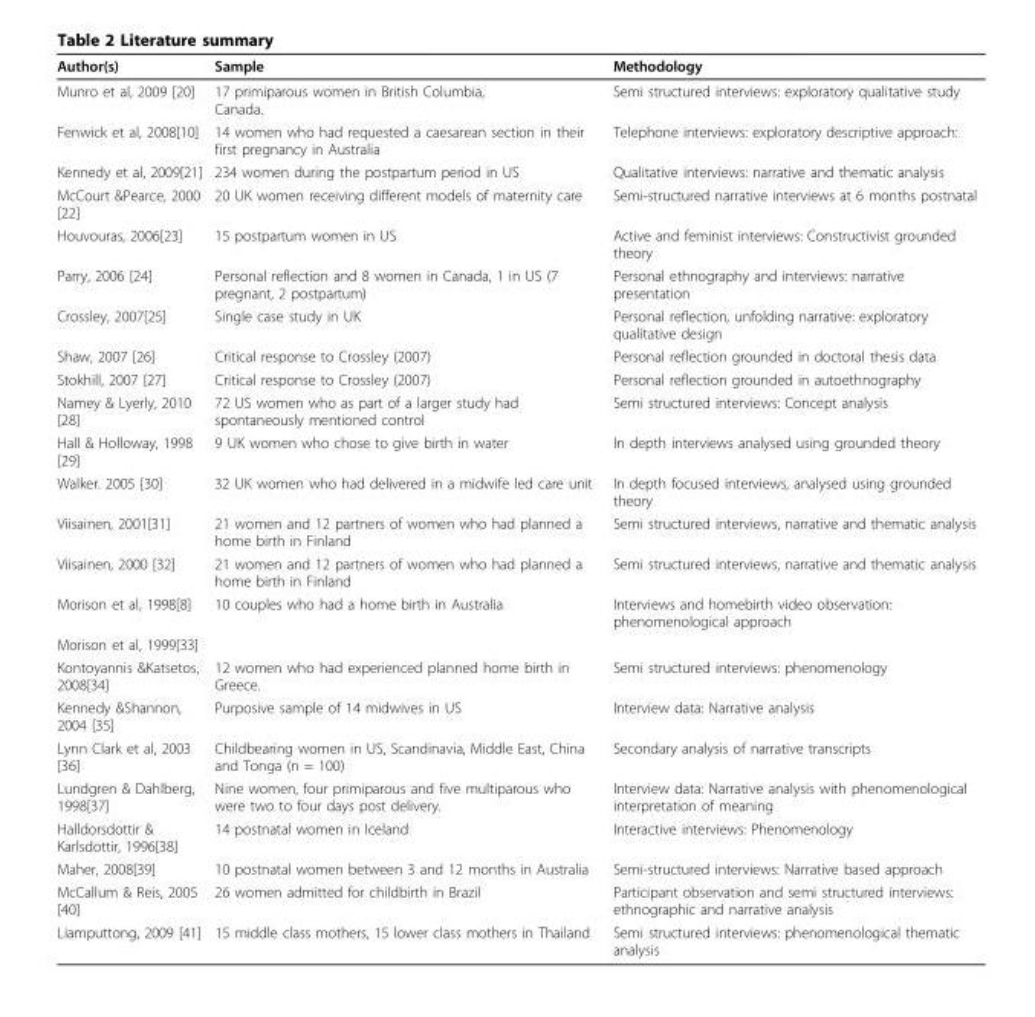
<table><thead><tr><td>Author(s)</td><td>Sample</td><td>Methodology</td></tr></thead><tbody><tr><td>Munro et al, 2009 [20]</td><td>17 primiparous women in British Columbia, Canada.</td><td>Semi structured interviews: exploratory qualitative study</td></tr><tr><td>Fenwick et al, 2008[10]</td><td>14 women who had requested a caesarean section in their first pregnancy in Australia</td><td>Telephone interviews: exploratory descriptive approach:</td></tr><tr><td>Kennedy et al, 2009[21]</td><td>234 women during the postpartum period in US</td><td>Qualitative interviews: narrative and thematic analysis</td></tr><tr><td>McCourt &amp;Pearce, 2000 [22]</td><td>20 UK women receiving different models of maternity care</td><td>Semi-structured narrative interviews at 6 months postnatal</td></tr><tr><td>Houvouras, 2006[23]</td><td>15 postpartum women in US</td><td>Active and feminist interviews: Constructivist grounded theory</td></tr><tr><td>Parry, 2006 [24]</td><td>Personal reflection and 8 women in Canada, 1 in US (7 pregnant, 2 postpartum)</td><td>Personal ethnography and interviews: narrative presentation</td></tr><tr><td>Crossley, 2007[25]</td><td>Single case study in UK</td><td>Personal reflection, unfolding narrative: exploratory qualitative design</td></tr><tr><td>Shaw, 2007 [26]</td><td>Critical response to Crossley (2007)</td><td>Personal reflection grounded in doctoral thesis data</td></tr><tr><td>Stokhill, 2007 [27]</td><td>Critical response to Crossley (2007)</td><td>Personal reflection grounded in autoethnography</td></tr><tr><td>Namey &amp; Lyerly, 2010 [28]</td><td>72 US women who as part of a larger study had spontaneously mentioned control</td><td>Semi structured interviews: Concept analysis</td></tr><tr><td>Hall &amp; Holloway, 1998 [29]</td><td>9 UK women who chose to give birth in water</td><td>In depth interviews analysed using grounded theory</td></tr><tr><td>Walker. 2005 [30]</td><td>32 UK women who had delivered in a midwife led care unit</td><td>In depth focused interviews, analysed using grounded theory</td></tr><tr><td>Viisainen, 2001[31]</td><td>21 women and 12 partners of women who had planned a home birth in Finland</td><td>Semi structured interviews, narrative and thematic analysis</td></tr><tr><td>Viisainen, 2000 [32]</td><td>21 women and 12 partners of women who had planned a home birth in Finland</td><td>Semi structured interviews, narrative and thematic analysis</td></tr><tr><td>Morison et al, 1998[8]</td><td>10 couples who had a home birth in Australia</td><td>Interviews and homebirth video observation: phenomenological approach</td></tr><tr><td colspan="3">Morison et al, 1999[33]</td></tr><tr><td>Kontoyannis &amp;Katsetos, 2008[34]</td><td>12 women who had experienced planned home birth in Greece.</td><td>Semi structured interviews: phenomenology</td></tr><tr><td>Kennedy &amp;Shannon, 2004 [35]</td><td>Purposive sample of 14 midwives in US</td><td>Interview data: Narrative analysis</td></tr><tr><td>Lynn Clark et al, 2003 [36]</td><td>Childbearing women in US, Scandinavia, Middle East, China and Tonga (n = 100)</td><td>Secondary analysis of narrative transcripts</td></tr><tr><td>Lundgren &amp; Dahlberg, 1998[37]</td><td>Nine women, four primiparous and five multiparous who were two to four days post delivery.</td><td>Interview data: Narrative analysis with phenomenological interpretation of meaning</td></tr><tr><td>Halldorsdottir &amp; Karlsdottir, 1996[38]</td><td>14 postnatal women in Iceland</td><td>Interactive interviews: Phenomenology</td></tr><tr><td>Maher, 2008[39]</td><td>10 postnatal women between 3 and 12 months in Australia</td><td>Semi-structured interviews: Narrative based approach</td></tr><tr><td>McCallum &amp; Reis, 2005 [40]</td><td>26 women admitted for childbirth in Brazil</td><td>Participant observation and semi structured interviews: ethnographic and narrative analysis</td></tr><tr><td>Liamputtong, 2009 [41]</td><td>15 middle class mothers, 15 lower class mothers in Thailand</td><td>Semi structured interviews: phenomenological thematic analysis</td></tr></tbody></table>